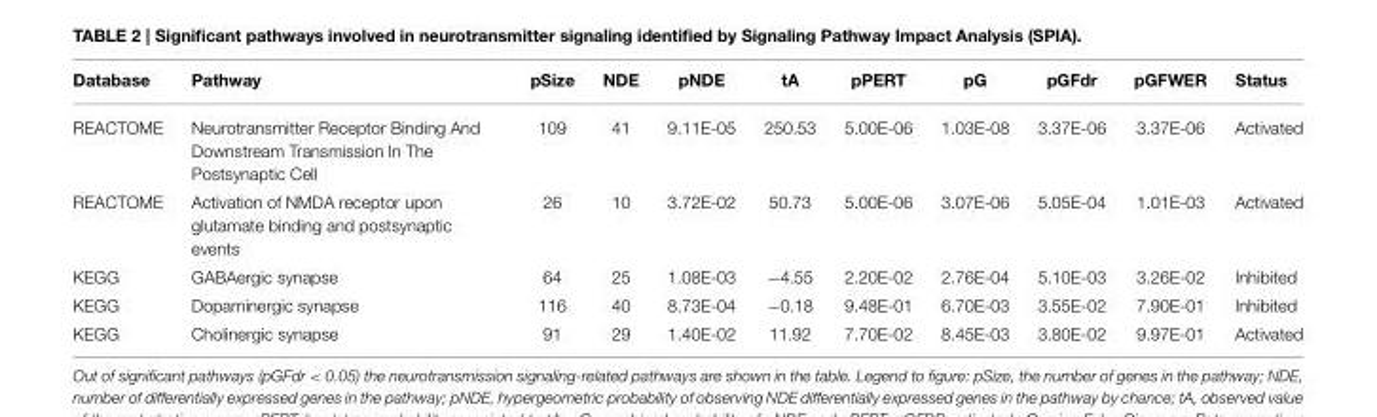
<table><thead><tr><td>Database</td><td>Pathway</td><td>pSize</td><td>NDE</td><td>pNDE</td><td>tA</td><td>pPERT</td><td>pG</td><td>pGFdr</td><td>pGFWER</td><td>Status</td></tr></thead><tbody><tr><td>REACTOME</td><td>Neurotransmitter Receptor Binding And Downstream Transmission In The Postsynaptic Cell</td><td>109</td><td>41</td><td>9.11E-05</td><td>250.53</td><td>5.00E-06</td><td>1.03E-08</td><td>3.37E-06</td><td>3.37E-06</td><td>Activated</td></tr><tr><td>REACTOME</td><td>Activation of NMDA receptor upon glutamate binding and postsynaptic events</td><td>26</td><td>10</td><td>3.72E-02</td><td>50.73</td><td>5.00E-06</td><td>3.07E-06</td><td>5.05E-04</td><td>1.01E-03</td><td>Activated</td></tr><tr><td>KEGG</td><td>GABAergic synapse</td><td>64</td><td>25</td><td>1.08E-03</td><td>−4.55</td><td>2.20E-02</td><td>2.76E-04</td><td>5.10E-03</td><td>3.26E-02</td><td>Inhibited</td></tr><tr><td>KEGG</td><td>Dopaminergic synapse</td><td>116</td><td>40</td><td>8.73E-04</td><td>−0.18</td><td>9.48E-01</td><td>6.70E-03</td><td>3.55E-02</td><td>7.90E-01</td><td>Inhibited</td></tr><tr><td>KEGG</td><td>Cholinergic synapse</td><td>91</td><td>29</td><td>1.40E-02</td><td>11.92</td><td>7.70E-02</td><td>8.45E-03</td><td>3.80E-02</td><td>9.97E-01</td><td>Activated</td></tr></tbody></table>